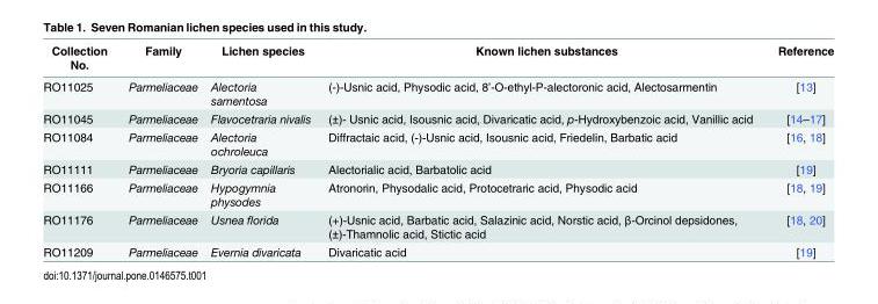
<table><thead><tr><td>Collection No.</td><td>Family</td><td>Lichen species</td><td>Known lichen substances</td><td>Reference</td></tr></thead><tbody><tr><td>RO11025</td><td>Parmeliaceae</td><td>Alectoria samentosa</td><td>(-)-Usnic acid, Physodic acid, 8’-O-ethyl-P-alectoronic acid, Alectosarmentin</td><td>[13]</td></tr><tr><td>RO11045</td><td>Parmeliaceae</td><td>Flavocetraria nivalis</td><td>(±)- Usnic acid, Isousnic acid, Divaricatic acid, p-Hydroxybenzoic acid, Vanillic acid</td><td>[14–17]</td></tr><tr><td>RO11084</td><td>Parmeliaceae</td><td>Alectoria ochroleuca</td><td>Diffractaic acid, (-)-Usnic acid, Isousnic acid, Friedelin, Barbatic acid</td><td>[16, 18]</td></tr><tr><td>RO11111</td><td>Parmeliaceae</td><td>Bryoria capillaris</td><td>Alectorialic acid, Barbatolic acid</td><td>[19]</td></tr><tr><td>RO11166</td><td>Parmeliaceae</td><td>Hypogymnia physodes</td><td>Atronorin, Physodalic acid, Protocetraric acid, Physodic acid</td><td>[18, 19]</td></tr><tr><td>RO11176</td><td>Parmeliaceae</td><td>Usnea florida</td><td>(+)-Usnic acid, Barbatic acid, Salazinic acid, Norstic acid, β-Orcinol depsidones, (±)-Thamnolic acid, Stictic acid</td><td>[18, 20]</td></tr><tr><td>RO11209</td><td>Parmeliaceae</td><td>Evernia divaricata</td><td>Divaricatic acid</td><td>[19]</td></tr></tbody></table>